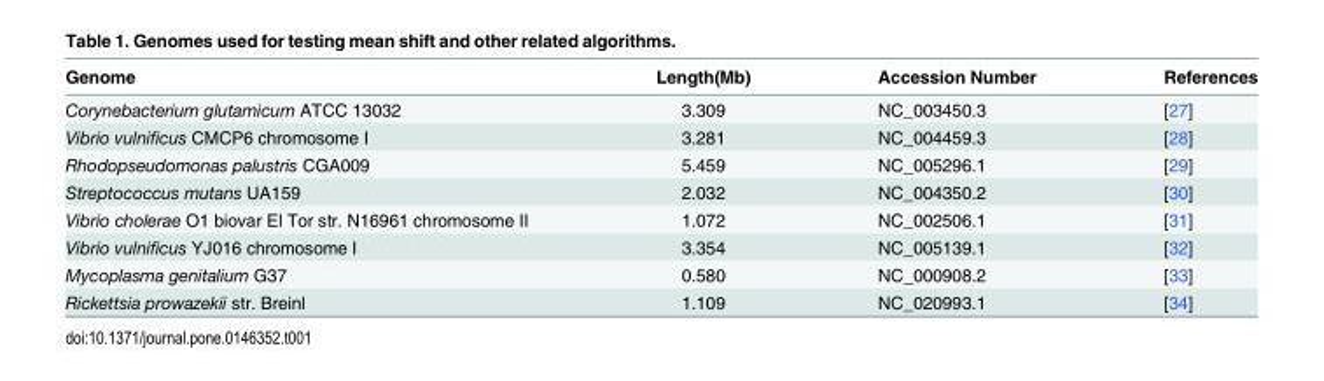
<table><thead><tr><td>Genome</td><td>Length(Mb)</td><td>Accession Number</td><td>References</td></tr></thead><tbody><tr><td>Corynebacterium glutamicum ATCC 13032</td><td>3.309</td><td>NC_003450.3</td><td>[27]</td></tr><tr><td>Vibrio vulnificus CMCP6 chromosome I</td><td>3.281</td><td>NC_004459.3</td><td>[28]</td></tr><tr><td>Rhodopseudomonas palustris CGA009</td><td>5.459</td><td>NC_005296.1</td><td>[29]</td></tr><tr><td>Streptococcus mutans UA159</td><td>2.032</td><td>NC_004350.2</td><td>[30]</td></tr><tr><td>Vibrio cholerae O1 biovar El Tor str. N16961 chromosome II</td><td>1.072</td><td>NC_002506.1</td><td>[31]</td></tr><tr><td>Vibrio vulnificus YJ016 chromosome I</td><td>3.354</td><td>NC_005139.1</td><td>[32]</td></tr><tr><td>Mycoplasma genitalium G37</td><td>0.580</td><td>NC_000908.2</td><td>[33]</td></tr><tr><td>Rickettsia prowazekii str. Breinl</td><td>1.109</td><td>NC_020993.1</td><td>[34]</td></tr></tbody></table>